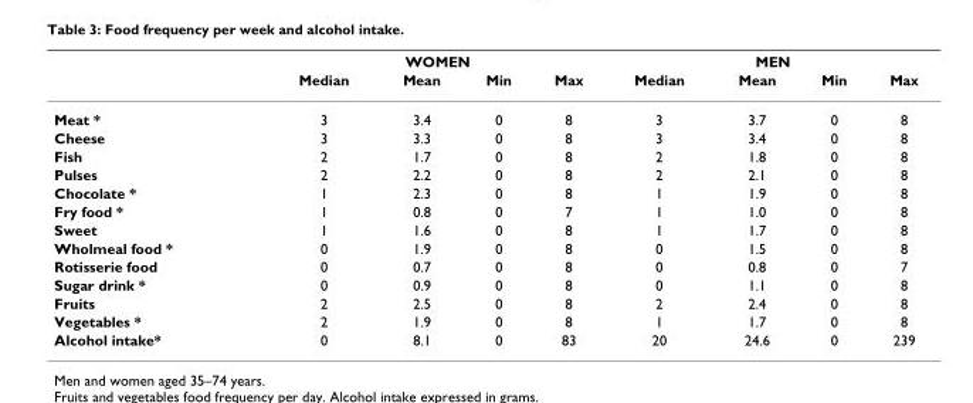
<table><thead><tr><td rowspan="2"></td><td colspan="4">WOMEN</td><td colspan="4">MEN</td></tr><tr><td>Median</td><td>Mean</td><td>Min</td><td>Max</td><td>Median</td><td>Mean</td><td>Min</td><td>Max</td></tr></thead><tbody><tr><td>Meat *</td><td>3</td><td>3.4</td><td>0</td><td>8</td><td>3</td><td>3.7</td><td>0</td><td>8</td></tr><tr><td>Cheese</td><td>3</td><td>3.3</td><td>0</td><td>8</td><td>3</td><td>3.4</td><td>0</td><td>8</td></tr><tr><td>Fish</td><td>2</td><td>1.7</td><td>0</td><td>8</td><td>2</td><td>1.8</td><td>0</td><td>8</td></tr><tr><td>Pulses</td><td>2</td><td>2.2</td><td>0</td><td>8</td><td>2</td><td>2.1</td><td>0</td><td>8</td></tr><tr><td>Chocolate *</td><td>1</td><td>2.3</td><td>0</td><td>8</td><td>1</td><td>1.9</td><td>0</td><td>8</td></tr><tr><td>Fry food *</td><td>1</td><td>0.8</td><td>0</td><td>7</td><td>1</td><td>1.0</td><td>0</td><td>8</td></tr><tr><td>Sweet</td><td>1</td><td>1.6</td><td>0</td><td>8</td><td>1</td><td>1.7</td><td>0</td><td>8</td></tr><tr><td>Wholmeal food *</td><td>0</td><td>1.9</td><td>0</td><td>8</td><td>0</td><td>1.5</td><td>0</td><td>8</td></tr><tr><td>Rotisserie food</td><td>0</td><td>0.7</td><td>0</td><td>8</td><td>0</td><td>0.8</td><td>0</td><td>7</td></tr><tr><td>Sugar drink *</td><td>0</td><td>0.9</td><td>0</td><td>8</td><td>0</td><td>1.1</td><td>0</td><td>8</td></tr><tr><td>Fruits</td><td>2</td><td>2.5</td><td>0</td><td>8</td><td>2</td><td>2.4</td><td>0</td><td>8</td></tr><tr><td>Vegetables *</td><td>2</td><td>1.9</td><td>0</td><td>8</td><td>1</td><td>1.7</td><td>0</td><td>8</td></tr><tr><td>Alcohol intake*</td><td>0</td><td>8.1</td><td>0</td><td>83</td><td>20</td><td>24.6</td><td>0</td><td>239</td></tr></tbody></table>